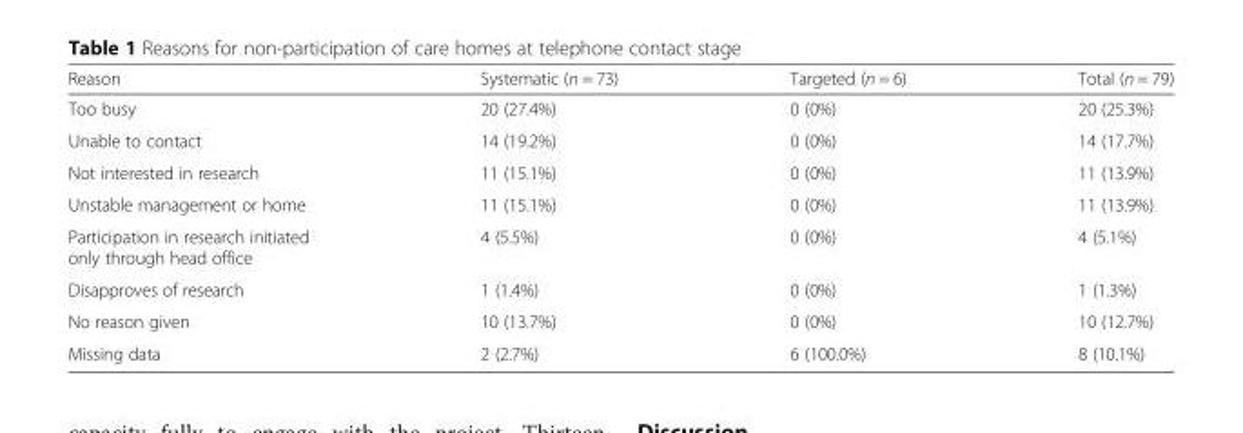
<table><thead><tr><td>Reason</td><td>Systematic (n = 73)</td><td>Targeted (n = 6)</td><td>Total (n = 79)</td></tr></thead><tbody><tr><td>Too busy</td><td>20 (27.4%)</td><td>0 (0%)</td><td>20 (25.3%)</td></tr><tr><td>Unable to contact</td><td>14 (19.2%)</td><td>0 (0%)</td><td>14 (17.7%)</td></tr><tr><td>Not interested in research</td><td>11 (15.1%)</td><td>0 (0%)</td><td>11 (13.9%)</td></tr><tr><td>Unstable management or home</td><td>11 (15.1%)</td><td>0 (0%)</td><td>11 (13.9%)</td></tr><tr><td>Participation in research initiated only through head office</td><td>4 (5.5%)</td><td>0 (0%)</td><td>4 (5.1%)</td></tr><tr><td>Disapproves of research</td><td>1 (1.4%)</td><td>0 (0%)</td><td>1 (1.3%)</td></tr><tr><td>No reason given</td><td>10 (13.7%)</td><td>0 (0%)</td><td>10 (12.7%)</td></tr><tr><td>Missing data</td><td>2 (2.7%)</td><td>6 (100.0%)</td><td>8 (10.1%)</td></tr></tbody></table>